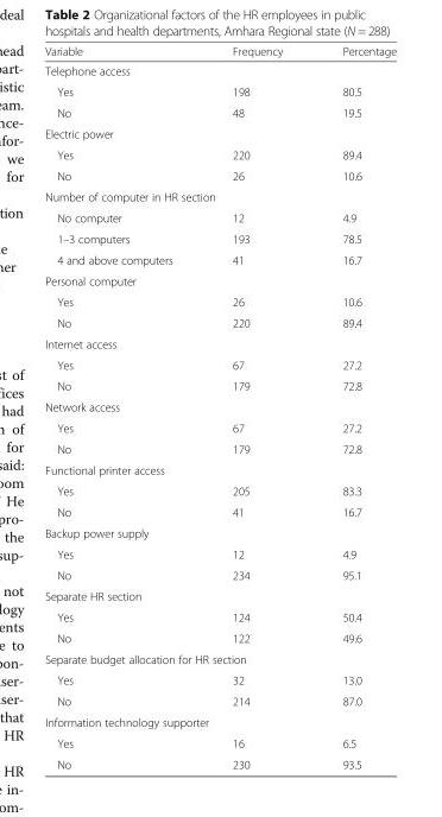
<table><thead><tr><td>Variable</td><td>Frequency</td><td>Percentage</td></tr></thead><tbody><tr><td colspan="3">Telephone access</td></tr><tr><td>Yes</td><td>198</td><td>80.5</td></tr><tr><td>No</td><td>48</td><td>19.5</td></tr><tr><td colspan="3">Electric power</td></tr><tr><td>Yes</td><td>220</td><td>89.4</td></tr><tr><td>No</td><td>26</td><td>10.6</td></tr><tr><td colspan="3">Number of computer in HR section</td></tr><tr><td>No computer</td><td>12</td><td>4.9</td></tr><tr><td>1–3 computers</td><td>193</td><td>78.5</td></tr><tr><td>4 and above computers</td><td>41</td><td>16.7</td></tr><tr><td colspan="3">Personal computer</td></tr><tr><td>Yes</td><td>26</td><td>10.6</td></tr><tr><td>No</td><td>220</td><td>89.4</td></tr><tr><td colspan="3">Internet access</td></tr><tr><td>Yes</td><td>67</td><td>27.2</td></tr><tr><td>No</td><td>179</td><td>72.8</td></tr><tr><td colspan="3">Network access</td></tr><tr><td>Yes</td><td>67</td><td>27.2</td></tr><tr><td>No</td><td>179</td><td>72.8</td></tr><tr><td colspan="3">Functional printer access</td></tr><tr><td>Yes</td><td>205</td><td>83.3</td></tr><tr><td>No</td><td>41</td><td>16.7</td></tr><tr><td colspan="3">Backup power supply</td></tr><tr><td>Yes</td><td>12</td><td>4.9</td></tr><tr><td>No</td><td>234</td><td>95.1</td></tr><tr><td colspan="3">Separate HR section</td></tr><tr><td>Yes</td><td>124</td><td>50.4</td></tr><tr><td>No</td><td>122</td><td>49.6</td></tr><tr><td colspan="3">Separate budget allocation for HR section</td></tr><tr><td>Yes</td><td>32</td><td>13.0</td></tr><tr><td>No</td><td>214</td><td>87.0</td></tr><tr><td colspan="3">Information technology supporter</td></tr><tr><td>Yes</td><td>16</td><td>6.5</td></tr><tr><td>No</td><td>230</td><td>93.5</td></tr></tbody></table>